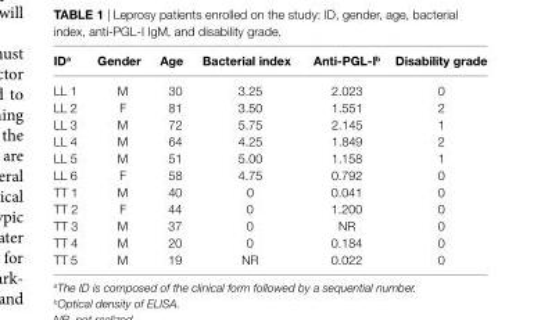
<table><thead><tr><td>iD<sup>a</sup></td><td>gender</td><td>age</td><td>bacterial index</td><td>anti-Pgl-i<sup>b</sup></td><td>Disability grade</td></tr></thead><tbody><tr><td>LL 1</td><td>M</td><td>30</td><td>3.25</td><td>2.023</td><td>0</td></tr><tr><td>LL 2</td><td>F</td><td>81</td><td>3.50</td><td>1.551</td><td>2</td></tr><tr><td>LL 3</td><td>M</td><td>72</td><td>5.75</td><td>2.145</td><td>1</td></tr><tr><td>LL 4</td><td>M</td><td>64</td><td>4.25</td><td>1.849</td><td>2</td></tr><tr><td>LL 5</td><td>M</td><td>51</td><td>5.00</td><td>1.158</td><td>1</td></tr><tr><td>LL 6</td><td>F</td><td>58</td><td>4.75</td><td>0.792</td><td>0</td></tr><tr><td>TT 1</td><td>M</td><td>40</td><td>0</td><td>0.041</td><td>0</td></tr><tr><td>TT 2</td><td>F</td><td>44</td><td>0</td><td>1.200</td><td>0</td></tr><tr><td>TT 3</td><td>M</td><td>37</td><td>0</td><td>NR</td><td>0</td></tr><tr><td>TT 4</td><td>M</td><td>20</td><td>0</td><td>0.184</td><td>0</td></tr><tr><td>TT 5</td><td>M</td><td>19</td><td>NR</td><td>0.022</td><td>0</td></tr></tbody></table>